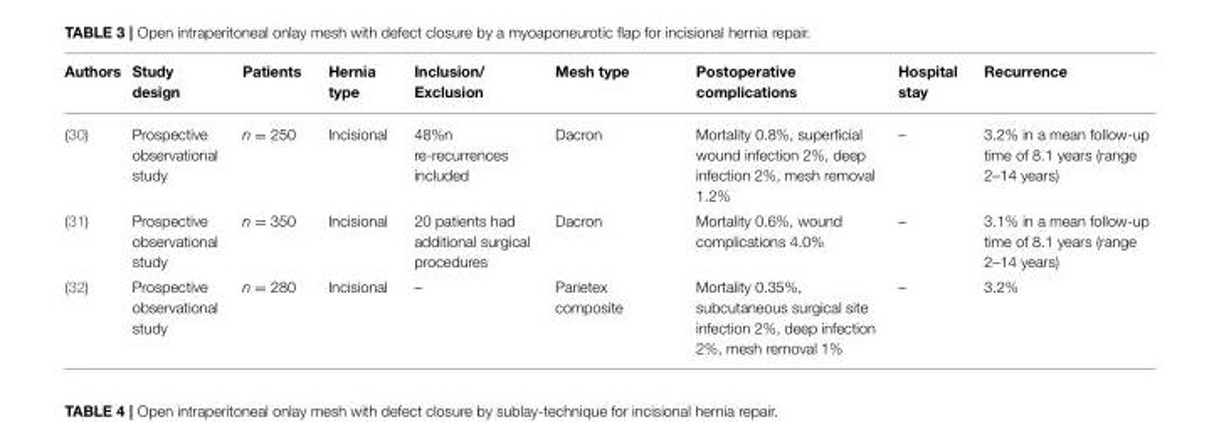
<table><thead><tr><td>Authors</td><td>Study design</td><td>Patients</td><td>Hernia type</td><td>Inclusion/ Exclusion</td><td>Mesh type</td><td>Postoperative complications</td><td>Hospital stay</td><td>Recurrence</td></tr></thead><tbody><tr><td>(30)</td><td>Prospective observational study</td><td>n = 250</td><td>Incisional</td><td>48%n re-recurrences included</td><td>Dacron</td><td>Mortality 0.8%, superficial wound infection 2%, deep infection 2%, mesh removal 1.2%</td><td>–</td><td>3.2% in a mean follow-up time of 8.1 years (range 2–14 years)</td></tr><tr><td>(31)</td><td>Prospective observational study</td><td>n = 350</td><td>Incisional</td><td>20 patients had additional surgical procedures</td><td>Dacron</td><td>Mortality 0.6%, wound complications 4.0%</td><td>–</td><td>3.1% in a mean follow-up time of 8.1 years (range 2–14 years)</td></tr><tr><td>(32)</td><td>Prospective observational study</td><td>n = 280</td><td>Incisional</td><td>–</td><td>Parietex composite</td><td>Mortality 0.35%, subcutaneous surgical site infection 2%, deep infection 2%, mesh removal 1%</td><td>–</td><td>3.2%</td></tr></tbody></table>